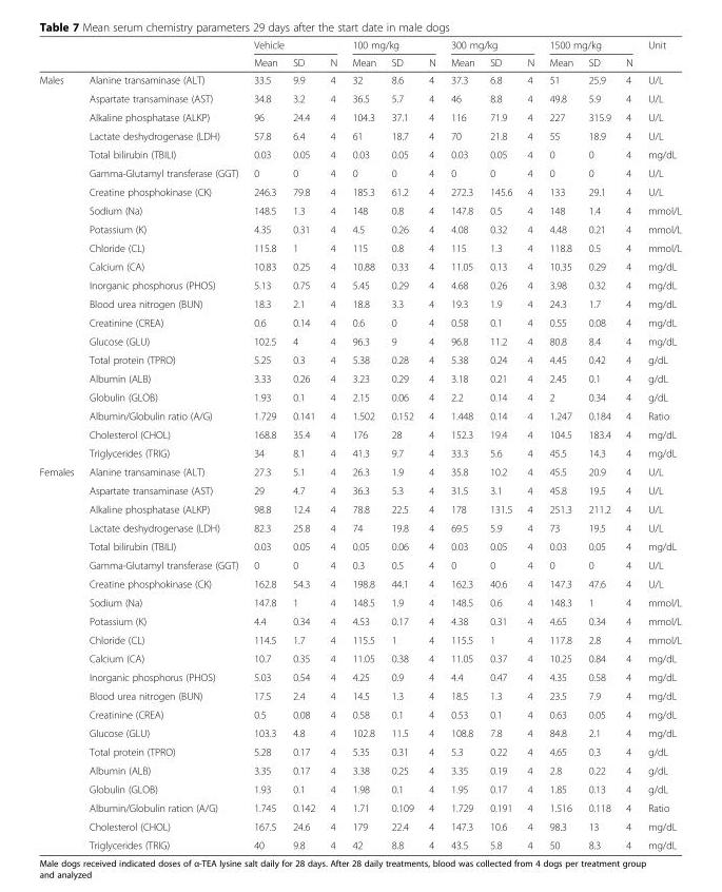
<table><thead><tr><td rowspan="2"></td><td rowspan="2"></td><td colspan="3">Vehicle</td><td colspan="3">100 mg/kg</td><td colspan="3">300 mg/kg</td><td colspan="3">1500 mg/kg</td><td rowspan="2">Unit</td></tr><tr><td>Mean</td><td>SD</td><td>N</td><td>Mean</td><td>SD</td><td>N</td><td>Mean</td><td>SD</td><td>N</td><td>Mean</td><td>SD</td><td>N</td></tr></thead><tbody><tr><td rowspan="21">Males</td><td>Alanine transaminase (ALT)</td><td>33.5</td><td>9.9</td><td>4</td><td>32</td><td>8.6</td><td>4</td><td>37.3</td><td>6.8</td><td>4</td><td>51</td><td>25.9</td><td>4</td><td>U/L</td></tr><tr><td>Aspartate transaminase (AST)</td><td>34.8</td><td>3.2</td><td>4</td><td>36.5</td><td>5.7</td><td>4</td><td>46</td><td>8.8</td><td>4</td><td>49.8</td><td>5.9</td><td>4</td><td>U/L</td></tr><tr><td>Alkaline phosphatase (ALKP)</td><td>96</td><td>24.4</td><td>4</td><td>104.3</td><td>37.1</td><td>4</td><td>116</td><td>71.9</td><td>4</td><td>227</td><td>315.9</td><td>4</td><td>U/L</td></tr><tr><td>Lactate deshydrogenase (LDH)</td><td>57.8</td><td>6.4</td><td>4</td><td>61</td><td>18.7</td><td>4</td><td>70</td><td>21.8</td><td>4</td><td>55</td><td>18.9</td><td>4</td><td>U/L</td></tr><tr><td>Total bilirubin (TBILI)</td><td>0.03</td><td>0.05</td><td>4</td><td>0.03</td><td>0.05</td><td>4</td><td>0.03</td><td>0.05</td><td>4</td><td>0</td><td>0</td><td>4</td><td>mg/dL</td></tr><tr><td>Gamma-Glutamyl transferase (GGT)</td><td>0</td><td>0</td><td>4</td><td>0</td><td>0</td><td>4</td><td>0</td><td>0</td><td>4</td><td>0</td><td>0</td><td>4</td><td>U/L</td></tr><tr><td>Creatine phosphokinase (CK)</td><td>246.3</td><td>79.8</td><td>4</td><td>185.3</td><td>61.2</td><td>4</td><td>272.3</td><td>145.6</td><td>4</td><td>133</td><td>29.1</td><td>4</td><td>U/L</td></tr><tr><td>Sodium (Na)</td><td>148.5</td><td>1.3</td><td>4</td><td>148</td><td>0.8</td><td>4</td><td>147.8</td><td>0.5</td><td>4</td><td>148</td><td>1.4</td><td>4</td><td>mmol/L</td></tr><tr><td>Potassium (K)</td><td>4.35</td><td>0.31</td><td>4</td><td>4.5</td><td>0.26</td><td>4</td><td>4.08</td><td>0.32</td><td>4</td><td>4.48</td><td>0.21</td><td>4</td><td>mmol/L</td></tr><tr><td>Chloride (CL)</td><td>115.8</td><td>1</td><td>4</td><td>115</td><td>0.8</td><td>4</td><td>115</td><td>1.3</td><td>4</td><td>118.8</td><td>0.5</td><td>4</td><td>mmol/L</td></tr><tr><td>Calcium (CA)</td><td>10.83</td><td>0.25</td><td>4</td><td>10.88</td><td>0.33</td><td>4</td><td>11.05</td><td>0.13</td><td>4</td><td>10.35</td><td>0.29</td><td>4</td><td>mg/dL</td></tr><tr><td>Inorganic phosphorus (PHOS)</td><td>5.13</td><td>0.75</td><td>4</td><td>5.45</td><td>0.29</td><td>4</td><td>4.68</td><td>0.26</td><td>4</td><td>3.98</td><td>0.32</td><td>4</td><td>mg/dL</td></tr><tr><td>Blood urea nitrogen (BUN)</td><td>18.3</td><td>2.1</td><td>4</td><td>18.8</td><td>3.3</td><td>4</td><td>19.3</td><td>1.9</td><td>4</td><td>24.3</td><td>1.7</td><td>4</td><td>mg/dL</td></tr><tr><td>Creatinine (CREA)</td><td>0.6</td><td>0.14</td><td>4</td><td>0.6</td><td>0</td><td>4</td><td>0.58</td><td>0.1</td><td>4</td><td>0.55</td><td>0.08</td><td>4</td><td>mg/dL</td></tr><tr><td>Glucose (GLU)</td><td>102.5</td><td>4</td><td>4</td><td>96.3</td><td>9</td><td>4</td><td>96.8</td><td>11.2</td><td>4</td><td>80.8</td><td>8.4</td><td>4</td><td>mg/dL</td></tr><tr><td>Total protein (TPRO)</td><td>5.25</td><td>0.3</td><td>4</td><td>5.38</td><td>0.28</td><td>4</td><td>5.38</td><td>0.24</td><td>4</td><td>4.45</td><td>0.42</td><td>4</td><td>g/dL</td></tr><tr><td>Albumin (ALB)</td><td>3.33</td><td>0.26</td><td>4</td><td>3.23</td><td>0.29</td><td>4</td><td>3.18</td><td>0.21</td><td>4</td><td>2.45</td><td>0.1</td><td>4</td><td>g/dL</td></tr><tr><td>Globulin (GLOB)</td><td>1.93</td><td>0.1</td><td>4</td><td>2.15</td><td>0.06</td><td>4</td><td>2.2</td><td>0.14</td><td>4</td><td>2</td><td>0.34</td><td>4</td><td>g/dL</td></tr><tr><td>Albumin/Globulin ratio (A/G)</td><td>1.729</td><td>0.141</td><td>4</td><td>1.502</td><td>0.152</td><td>4</td><td>1.448</td><td>0.14</td><td>4</td><td>1.247</td><td>0.184</td><td>4</td><td>Ratio</td></tr><tr><td>Cholesterol (CHOL)</td><td>168.8</td><td>35.4</td><td>4</td><td>176</td><td>28</td><td>4</td><td>152.3</td><td>19.4</td><td>4</td><td>104.5</td><td>183.4</td><td>4</td><td>mg/dL</td></tr><tr><td>Triglycerides (TRIG)</td><td>34</td><td>8.1</td><td>4</td><td>41.3</td><td>9.7</td><td>4</td><td>33.3</td><td>5.6</td><td>4</td><td>45.5</td><td>14.3</td><td>4</td><td>mg/dL</td></tr><tr><td rowspan="21">Females</td><td>Alanine transaminase (ALT)</td><td>27.3</td><td>5.1</td><td>4</td><td>26.3</td><td>1.9</td><td>4</td><td>35.8</td><td>10.2</td><td>4</td><td>45.5</td><td>20.9</td><td>4</td><td>U/L</td></tr><tr><td>Aspartate transaminase (AST)</td><td>29</td><td>4.7</td><td>4</td><td>36.3</td><td>5.3</td><td>4</td><td>31.5</td><td>3.1</td><td>4</td><td>45.8</td><td>19.5</td><td>4</td><td>U/L</td></tr><tr><td>Alkaline phosphatase (ALKP)</td><td>98.8</td><td>12.4</td><td>4</td><td>78.8</td><td>22.5</td><td>4</td><td>178</td><td>131.5</td><td>4</td><td>251.3</td><td>211.2</td><td>4</td><td>U/L</td></tr><tr><td>Lactate deshydrogenase (LDH)</td><td>82.3</td><td>25.8</td><td>4</td><td>74</td><td>19.8</td><td>4</td><td>69.5</td><td>5.9</td><td>4</td><td>73</td><td>19.5</td><td>4</td><td>U/L</td></tr><tr><td>Total bilirubin (TBILI)</td><td>0.03</td><td>0.05</td><td>4</td><td>0.05</td><td>0.06</td><td>4</td><td>0.03</td><td>0.05</td><td>4</td><td>0.03</td><td>0.05</td><td>4</td><td>mg/dL</td></tr><tr><td>Gamma-Glutamyl transferase (GGT)</td><td>0</td><td>0</td><td>4</td><td>0.3</td><td>0.5</td><td>4</td><td>0</td><td>0</td><td>4</td><td>0</td><td>0</td><td>4</td><td>U/L</td></tr><tr><td>Creatine phosphokinase (CK)</td><td>162.8</td><td>54.3</td><td>4</td><td>198.8</td><td>44.1</td><td>4</td><td>162.3</td><td>40.6</td><td>4</td><td>147.3</td><td>47.6</td><td>4</td><td>U/L</td></tr><tr><td>Sodium (Na)</td><td>147.8</td><td>1</td><td>4</td><td>148.5</td><td>1.9</td><td>4</td><td>148.5</td><td>0.6</td><td>4</td><td>148.3</td><td>1</td><td>4</td><td>mmol/L</td></tr><tr><td>Potassium (K)</td><td>4.4</td><td>0.34</td><td>4</td><td>4.53</td><td>0.17</td><td>4</td><td>4.38</td><td>0.31</td><td>4</td><td>4.65</td><td>0.34</td><td>4</td><td>mmol/L</td></tr><tr><td>Chloride (CL)</td><td>114.5</td><td>1.7</td><td>4</td><td>115.5</td><td>1</td><td>4</td><td>115.5</td><td>1</td><td>4</td><td>117.8</td><td>2.8</td><td>4</td><td>mmol/L</td></tr><tr><td>Calcium (CA)</td><td>10.7</td><td>0.35</td><td>4</td><td>11.05</td><td>0.38</td><td>4</td><td>11.05</td><td>0.37</td><td>4</td><td>10.25</td><td>0.84</td><td>4</td><td>mg/dL</td></tr><tr><td>Inorganic phosphorus (PHOS)</td><td>5.03</td><td>0.54</td><td>4</td><td>4.25</td><td>0.9</td><td>4</td><td>4.4</td><td>0.47</td><td>4</td><td>4.35</td><td>0.58</td><td>4</td><td>mg/dL</td></tr><tr><td>Blood urea nitrogen (BUN)</td><td>17.5</td><td>2.4</td><td>4</td><td>14.5</td><td>1.3</td><td>4</td><td>18.5</td><td>1.3</td><td>4</td><td>23.5</td><td>7.9</td><td>4</td><td>mg/dL</td></tr><tr><td>Creatinine (CREA)</td><td>0.5</td><td>0.08</td><td>4</td><td>0.58</td><td>0.1</td><td>4</td><td>0.53</td><td>0.1</td><td>4</td><td>0.63</td><td>0.05</td><td>4</td><td>mg/dL</td></tr><tr><td>Glucose (GLU)</td><td>103.3</td><td>4.8</td><td>4</td><td>102.8</td><td>11.5</td><td>4</td><td>108.8</td><td>7.8</td><td>4</td><td>84.8</td><td>2.1</td><td>4</td><td>mg/dL</td></tr><tr><td>Total protein (TPRO)</td><td>5.28</td><td>0.17</td><td>4</td><td>5.35</td><td>0.31</td><td>4</td><td>5.3</td><td>0.22</td><td>4</td><td>4.65</td><td>0.3</td><td>4</td><td>g/dL</td></tr><tr><td>Albumin (ALB)</td><td>3.35</td><td>0.17</td><td>4</td><td>3.38</td><td>0.25</td><td>4</td><td>3.35</td><td>0.19</td><td>4</td><td>2.8</td><td>0.22</td><td>4</td><td>g/dL</td></tr><tr><td>Globulin (GLOB)</td><td>1.93</td><td>0.1</td><td>4</td><td>1.98</td><td>0.1</td><td>4</td><td>1.95</td><td>0.17</td><td>4</td><td>1.85</td><td>0.13</td><td>4</td><td>g/dL</td></tr><tr><td>Albumin/Globulin ration (A/G)</td><td>1.745</td><td>0.142</td><td>4</td><td>1.71</td><td>0.109</td><td>4</td><td>1.729</td><td>0.191</td><td>4</td><td>1.516</td><td>0.118</td><td>4</td><td>Ratio</td></tr><tr><td>Cholesterol (CHOL)</td><td>167.5</td><td>24.6</td><td>4</td><td>179</td><td>22.4</td><td>4</td><td>147.3</td><td>10.6</td><td>4</td><td>98.3</td><td>13</td><td>4</td><td>mg/dL</td></tr><tr><td>Triglycerides (TRIG)</td><td>40</td><td>9.8</td><td>4</td><td>42</td><td>8.8</td><td>4</td><td>43.5</td><td>5.8</td><td>4</td><td>50</td><td>8.3</td><td>4</td><td>mg/dL</td></tr></tbody></table>